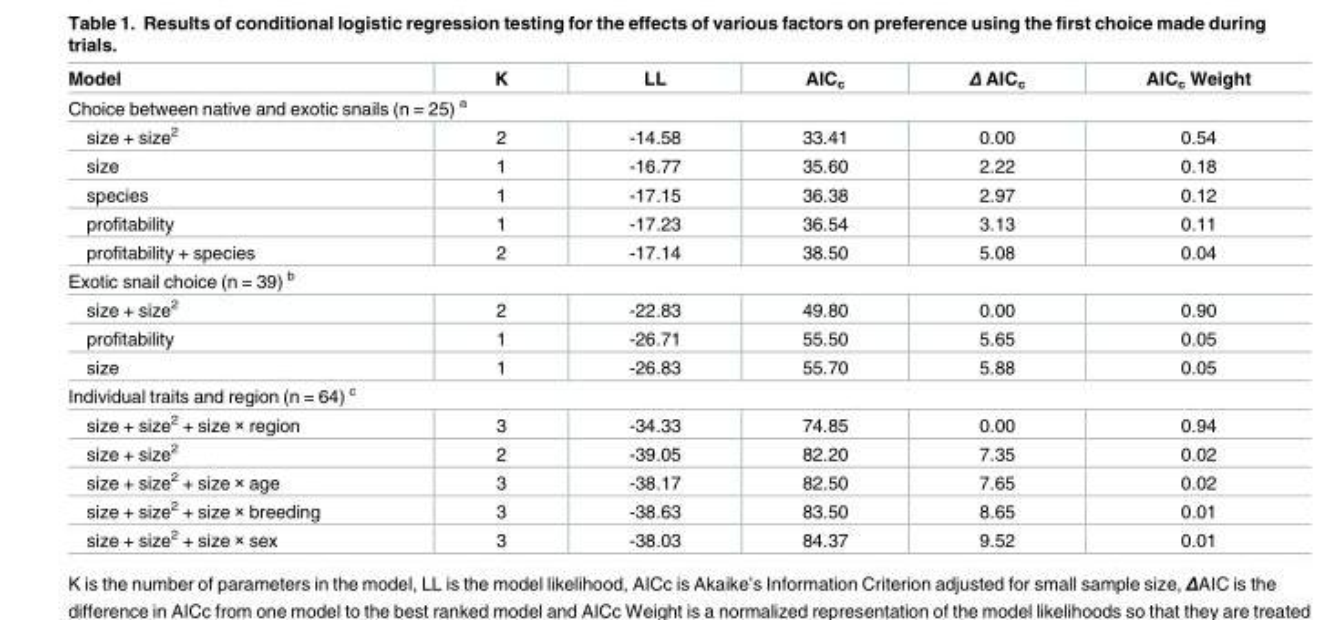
<table><thead><tr><td>Model</td><td>K</td><td>LL</td><td>AIC<sub>c</sub></td><td>Δ AIC<sub>c</sub></td><td>AIC<sub>c</sub> Weight</td></tr></thead><tbody><tr><td colspan="6">Choice between native and exotic snails (n = 25) <sup>a</sup></td></tr><tr><td>size + size<sup>2</sup></td><td>2</td><td>-14.58</td><td>33.41</td><td>0.00</td><td>0.54</td></tr><tr><td>size</td><td>1</td><td>-16.77</td><td>35.60</td><td>2.22</td><td>0.18</td></tr><tr><td>species</td><td>1</td><td>-17.15</td><td>36.38</td><td>2.97</td><td>0.12</td></tr><tr><td>profitability</td><td>1</td><td>-17.23</td><td>36.54</td><td>3.13</td><td>0.11</td></tr><tr><td>profitability + species</td><td>2</td><td>-17.14</td><td>38.50</td><td>5.08</td><td>0.04</td></tr><tr><td colspan="6">Exotic snail choice (n = 39) <sup>b</sup></td></tr><tr><td>size + size<sup>2</sup></td><td>2</td><td>-22.83</td><td>49.80</td><td>0.00</td><td>0.90</td></tr><tr><td>profitability</td><td>1</td><td>-26.71</td><td>55.50</td><td>5.65</td><td>0.05</td></tr><tr><td>size</td><td>1</td><td>-26.83</td><td>55.70</td><td>5.88</td><td>0.05</td></tr><tr><td colspan="6">Individual traits and region (n = 64) <sup>c</sup></td></tr><tr><td>size + size<sup>2</sup> + size × region</td><td>3</td><td>-34.33</td><td>74.85</td><td>0.00</td><td>0.94</td></tr><tr><td>size + size<sup>2</sup></td><td>2</td><td>-39.05</td><td>82.20</td><td>7.35</td><td>0.02</td></tr><tr><td>size + size<sup>2</sup> + size × age</td><td>3</td><td>-38.17</td><td>82.50</td><td>7.65</td><td>0.02</td></tr><tr><td>size + size<sup>2</sup> + size × breeding</td><td>3</td><td>-38.63</td><td>83.50</td><td>8.65</td><td>0.01</td></tr><tr><td>size + size<sup>2</sup> + size × sex</td><td>3</td><td>-38.03</td><td>84.37</td><td>9.52</td><td>0.01</td></tr></tbody></table>